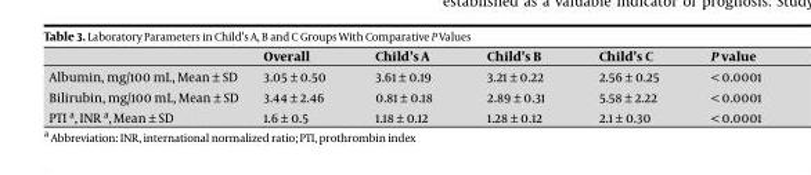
<table><thead><tr><td></td><td>Overall</td><td>Child’s A</td><td>Child’s B</td><td>Child’s C</td><td>P value</td></tr></thead><tbody><tr><td>Albumin, mg/100 mL, Mean ± SD</td><td>3.05 ± 0.50</td><td>3.61 ± 0.19</td><td>3.21 ± 0.22</td><td>2.56 ± 0.25</td><td>&lt; 0.0001</td></tr><tr><td>Bilirubin, mg/100 mL, Mean ± SD</td><td>3.44 ± 2.46</td><td>0.81 ± 0.18</td><td>2.89 ± 0.31</td><td>5.58 ± 2.22</td><td>&lt; 0.0001</td></tr><tr><td>PTI a, INR a, Mean ± SD</td><td>1.6 ± 0.5</td><td>1.18 ± 0.12</td><td>1.28 ± 0.12</td><td>2.1 ± 0.30</td><td>&lt; 0.0001</td></tr></tbody></table>